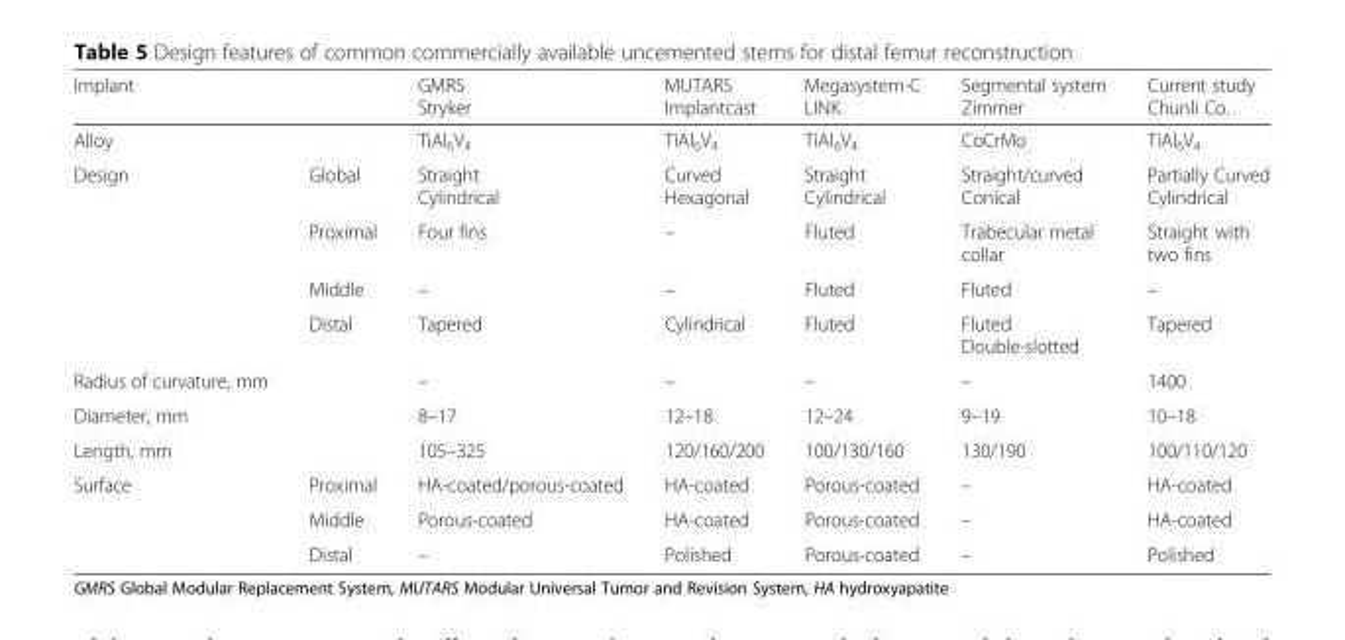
<table><thead><tr><td>Implant</td><td></td><td>GMRS Stryker</td><td>MUTARS Implantcast</td><td>Megasystem-C LINK</td><td>Segmental system Zimmer</td><td>Current study Chunli Co.</td></tr></thead><tbody><tr><td>Alloy</td><td></td><td>TiAl<sub>6</sub>V<sub>4</sub></td><td>TiAl<sub>6</sub>V<sub>4</sub></td><td>TiAl<sub>6</sub>V<sub>4</sub></td><td>CoCrMo</td><td>TiAl<sub>6</sub>V<sub>4</sub></td></tr><tr><td rowspan="4">Design</td><td>Global</td><td>Straight Cylindrical</td><td>Curved Hexagonal</td><td>Straight Cylindrical</td><td>Straight/curved Conical</td><td>Partially Curved Cylindrical</td></tr><tr><td>Proximal</td><td>Four fins</td><td>–</td><td>Fluted</td><td>Trabecular metal collar</td><td>Straight with two fins</td></tr><tr><td>Middle</td><td>–</td><td>–</td><td>Fluted</td><td>Fluted</td><td>–</td></tr><tr><td>Distal</td><td>Tapered</td><td>Cylindrical</td><td>Fluted</td><td>Fluted Double-slotted</td><td>Tapered</td></tr><tr><td>Radius of curvature, mm</td><td></td><td>–</td><td>–</td><td>–</td><td>–</td><td>1400</td></tr><tr><td>Diameter, mm</td><td></td><td>8–17</td><td>12–18</td><td>12–24</td><td>9–19</td><td>10–18</td></tr><tr><td>Length, mm</td><td></td><td>105–325</td><td>120/160/200</td><td>100/130/160</td><td>130/190</td><td>100/110/120</td></tr><tr><td rowspan="3">Surface</td><td>Proximal</td><td>HA-coated/porous-coated</td><td>HA-coated</td><td>Porous-coated</td><td>–</td><td>HA-coated</td></tr><tr><td>Middle</td><td>Porous-coated</td><td>HA-coated</td><td>Porous-coated</td><td>–</td><td>HA-coated</td></tr><tr><td>Distal</td><td>–</td><td>Polished</td><td>Porous-coated</td><td>–</td><td>Polished</td></tr></tbody></table>